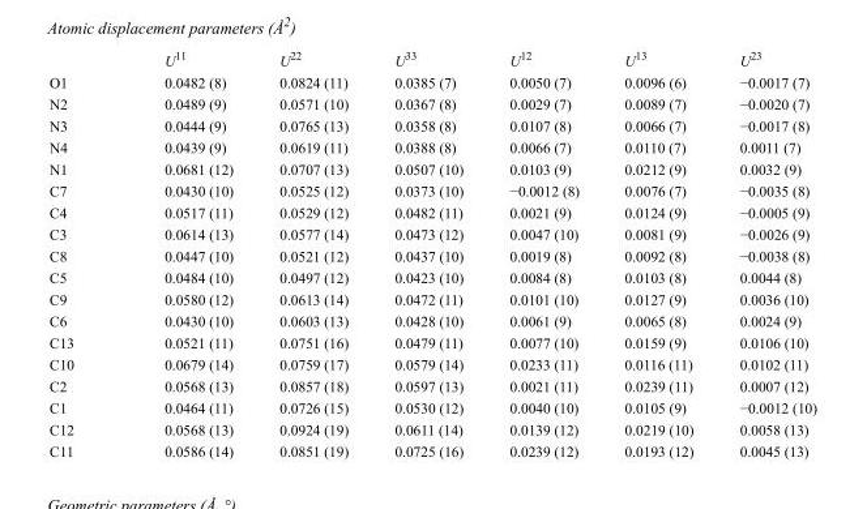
<table><thead><tr><td></td><td>U<sup>11</sup></td><td>U<sup>22</sup></td><td>U<sup>33</sup></td><td>U<sup>12</sup></td><td>U<sup>13</sup></td><td>U<sup>23</sup></td></tr></thead><tbody><tr><td>O1</td><td>0.0482 (8)</td><td>0.0824 (11)</td><td>0.0385 (7)</td><td>0.0050 (7)</td><td>0.0096 (6)</td><td>−0.0017 (7)</td></tr><tr><td>N2</td><td>0.0489 (9)</td><td>0.0571 (10)</td><td>0.0367 (8)</td><td>0.0029 (7)</td><td>0.0089 (7)</td><td>−0.0020 (7)</td></tr><tr><td>N3</td><td>0.0444 (9)</td><td>0.0765 (13)</td><td>0.0358 (8)</td><td>0.0107 (8)</td><td>0.0066 (7)</td><td>−0.0017 (8)</td></tr><tr><td>N4</td><td>0.0439 (9)</td><td>0.0619 (11)</td><td>0.0388 (8)</td><td>0.0066 (7)</td><td>0.0110 (7)</td><td>0.0011 (7)</td></tr><tr><td>N1</td><td>0.0681 (12)</td><td>0.0707 (13)</td><td>0.0507 (10)</td><td>0.0103 (9)</td><td>0.0212 (9)</td><td>0.0032 (9)</td></tr><tr><td>C7</td><td>0.0430 (10)</td><td>0.0525 (12)</td><td>0.0373 (10)</td><td>−0.0012 (8)</td><td>0.0076 (7)</td><td>−0.0035 (8)</td></tr><tr><td>C4</td><td>0.0517 (11)</td><td>0.0529 (12)</td><td>0.0482 (11)</td><td>0.0021 (9)</td><td>0.0124 (9)</td><td>−0.0005 (9)</td></tr><tr><td>C3</td><td>0.0614 (13)</td><td>0.0577 (14)</td><td>0.0473 (12)</td><td>0.0047 (10)</td><td>0.0081 (9)</td><td>−0.0026 (9)</td></tr><tr><td>C8</td><td>0.0447 (10)</td><td>0.0521 (12)</td><td>0.0437 (10)</td><td>0.0019 (8)</td><td>0.0092 (8)</td><td>−0.0038 (8)</td></tr><tr><td>C5</td><td>0.0484 (10)</td><td>0.0497 (12)</td><td>0.0423 (10)</td><td>0.0084 (8)</td><td>0.0103 (8)</td><td>0.0044 (8)</td></tr><tr><td>C9</td><td>0.0580 (12)</td><td>0.0613 (14)</td><td>0.0472 (11)</td><td>0.0101 (10)</td><td>0.0127 (9)</td><td>0.0036 (10)</td></tr><tr><td>C6</td><td>0.0430 (10)</td><td>0.0603 (13)</td><td>0.0428 (10)</td><td>0.0061 (9)</td><td>0.0065 (8)</td><td>0.0024 (9)</td></tr><tr><td>C13</td><td>0.0521 (11)</td><td>0.0751 (16)</td><td>0.0479 (11)</td><td>0.0077 (10)</td><td>0.0159 (9)</td><td>0.0106 (10)</td></tr><tr><td>C10</td><td>0.0679 (14)</td><td>0.0759 (17)</td><td>0.0579 (14)</td><td>0.0233 (11)</td><td>0.0116 (11)</td><td>0.0102 (11)</td></tr><tr><td>C2</td><td>0.0568 (13)</td><td>0.0857 (18)</td><td>0.0597 (13)</td><td>0.0021 (11)</td><td>0.0239 (11)</td><td>0.0007 (12)</td></tr><tr><td>C1</td><td>0.0464 (11)</td><td>0.0726 (15)</td><td>0.0530 (12)</td><td>0.0040 (10)</td><td>0.0105 (9)</td><td>−0.0012 (10)</td></tr><tr><td>C12</td><td>0.0568 (13)</td><td>0.0924 (19)</td><td>0.0611 (14)</td><td>0.0139 (12)</td><td>0.0219 (10)</td><td>0.0058 (13)</td></tr><tr><td>C11</td><td>0.0586 (14)</td><td>0.0851 (19)</td><td>0.0725 (16)</td><td>0.0239 (12)</td><td>0.0193 (12)</td><td>0.0045 (13)</td></tr></tbody></table>